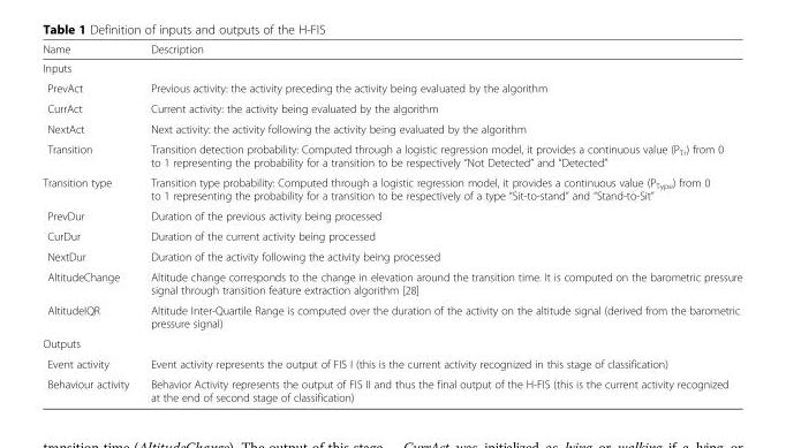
<table><thead><tr><td>Name</td><td>Description</td></tr></thead><tbody><tr><td colspan="2">Inputs</td></tr><tr><td>PrevAct</td><td>Previous activity: the activity preceding the activity being evaluated by the algorithm</td></tr><tr><td>CurrAct</td><td>Current activity: the activity being evaluated by the algorithm</td></tr><tr><td>NextAct</td><td>Next activity: the activity following the activity being evaluated by the algorithm</td></tr><tr><td>Transition</td><td>Transition detection probability: Computed through a logistic regression model, it provides a continuous value (P<sub>Tr</sub>) from 0 to 1 representing the probability for a transition to be respectively “Not Detected” and “Detected”</td></tr><tr><td>Transition type</td><td>Transition type probability: Computed through a logistic regression model, it provides a continuous value (P<sub>Type</sub>) from 0 to 1 representing the probability for a transition to be respectively of a type “Sit-to-stand” and “Stand-to-Sit”</td></tr><tr><td>PrevDur</td><td>Duration of the previous activity being processed</td></tr><tr><td>CurDur</td><td>Duration of the current activity being processed</td></tr><tr><td>NextDur</td><td>Duration of the activity following the activity being processed</td></tr><tr><td>AltitudeChange</td><td>Altitude change corresponds to the change in elevation around the transition time. It is computed on the barometric pressure signal through transition feature extraction algorithm [28]</td></tr><tr><td>AltitudeIQR</td><td>Altitude Inter-Quartile Range is computed over the duration of the activity on the altitude signal (derived from the barometric pressure signal)</td></tr><tr><td colspan="2">Outputs</td></tr><tr><td>Event activity</td><td>Event activity represents the output of FIS I (this is the current activity recognized in this stage of classification)</td></tr><tr><td>Behaviour activity</td><td>Behavior Activity represents the output of FIS II and thus the final output of the H-FIS (this is the current activity recognized at the end of second stage of classification)</td></tr></tbody></table>